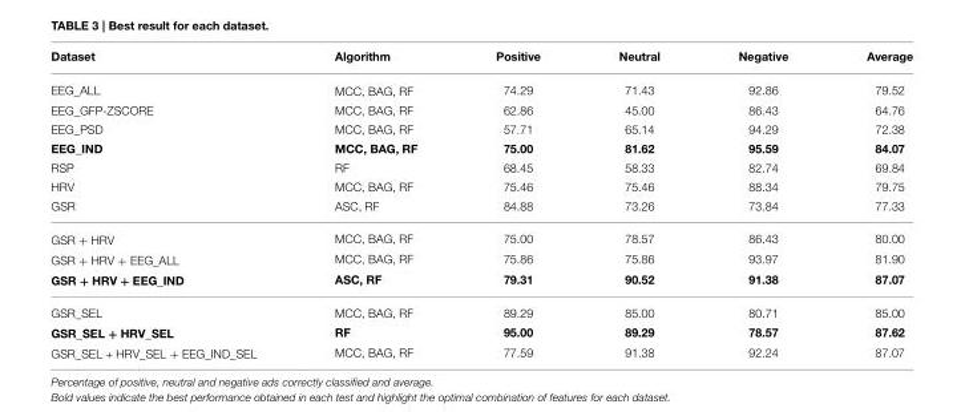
<table><thead><tr><td>Dataset</td><td>Algorithm</td><td>Positive</td><td>Neutral</td><td>Negative</td><td>Average</td></tr></thead><tbody><tr><td>EEG_ALL</td><td>MCC, BAG, RF</td><td>74.29</td><td>71.43</td><td>92.86</td><td>79.52</td></tr><tr><td>EEG_GFP-ZSCORE</td><td>MCC, BAG, RF</td><td>62.86</td><td>45.00</td><td>86.43</td><td>64.76</td></tr><tr><td>EEG_PSD</td><td>MCC, BAG, RF</td><td>57.71</td><td>65.14</td><td>94.29</td><td>72.38</td></tr><tr><td>EEG_IND</td><td>MCC, BAG, RF</td><td>75.00</td><td>81.62</td><td>95.59</td><td>84.07</td></tr><tr><td>RSP</td><td>RF</td><td>68.45</td><td>58.33</td><td>82.74</td><td>69.84</td></tr><tr><td>HRV</td><td>MCC, BAG, RF</td><td>75.46</td><td>75.46</td><td>88.34</td><td>79.75</td></tr><tr><td>GSR</td><td>ASC, RF</td><td>84.88</td><td>73.26</td><td>73.84</td><td>77.33</td></tr><tr><td>GSR + HRV</td><td>MCC, BAG, RF</td><td>75.00</td><td>78.57</td><td>86.43</td><td>80.00</td></tr><tr><td>GSR + HRV + EEG_ALL</td><td>MCC, BAG, RF</td><td>75.86</td><td>75.86</td><td>93.97</td><td>81.90</td></tr><tr><td>GSR + HRV + EEG_IND</td><td>ASC, RF</td><td>79.31</td><td>90.52</td><td>91.38</td><td>87.07</td></tr><tr><td>GSR_SEL</td><td>MCC, BAG, RF</td><td>89.29</td><td>85.00</td><td>80.71</td><td>85.00</td></tr><tr><td>GSR_SEL + HRV_SEL</td><td>RF</td><td>95.00</td><td>89.29</td><td>78.57</td><td>87.62</td></tr><tr><td>GSR_SEL + HRV_SEL + EEG_IND_SEL</td><td>MCC, BAG, RF</td><td>77.59</td><td>91.38</td><td>92.24</td><td>87.07</td></tr></tbody></table>